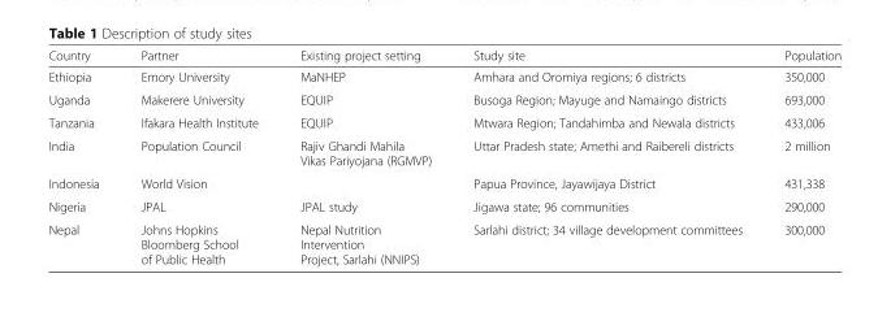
<table><thead><tr><td>Country</td><td>Partner</td><td>Existing project setting</td><td>Study site</td><td>Population</td></tr></thead><tbody><tr><td>Ethiopia</td><td>Emory University</td><td>MaNHEP</td><td>Amhara and Oromiya regions; 6 districts</td><td>350,000</td></tr><tr><td>Uganda</td><td>Makerere University</td><td>EQUIP</td><td>Busoga Region; Mayuge and Namaingo districts</td><td>693,000</td></tr><tr><td>Tanzania</td><td>Ifakara Health Institute</td><td>EQUIP</td><td>Mtwara Region; Tandahimba and Newala districts</td><td>433,006</td></tr><tr><td>India</td><td>Population Council</td><td>Rajiv Ghandi Mahila Vikas Pariyojana (RGMVP)</td><td>Uttar Pradesh state; Amethi and Raibereli districts</td><td>2 million</td></tr><tr><td>Indonesia</td><td>World Vision</td><td></td><td>Papua Province, Jayawijaya District</td><td>431,338</td></tr><tr><td>Nigeria</td><td>JPAL</td><td>JPAL study</td><td>Jigawa state; 96 communities</td><td>290,000</td></tr><tr><td>Nepal</td><td>Johns Hopkins Bloomberg School of Public Health</td><td>Nepal Nutrition Intervention Project, Sarlahi (NNIPS)</td><td>Sarlahi district; 34 village development committees</td><td>300,000</td></tr></tbody></table>